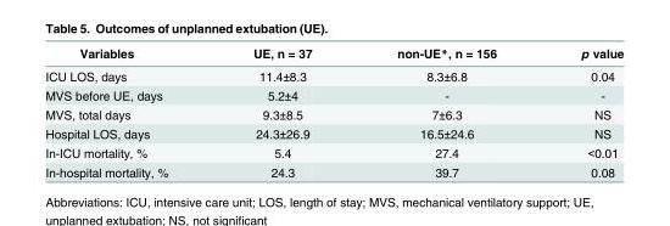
<table><thead><tr><td>Variables</td><td>UE, n = 37</td><td>non-UE*, n = 156</td><td>p value</td></tr></thead><tbody><tr><td>ICU LOS, days</td><td>11.4±8.3</td><td>8.3±6.8</td><td>0.04</td></tr><tr><td>MVS before UE, days</td><td>5.2±4</td><td>-</td><td>-</td></tr><tr><td>MVS, total days</td><td>9.3±8.5</td><td>7±6.3</td><td>NS</td></tr><tr><td>Hospital LOS, days</td><td>24.3±26.9</td><td>16.5±24.6</td><td>NS</td></tr><tr><td>In-ICU mortality, %</td><td>5.4</td><td>27.4</td><td>&lt;0.01</td></tr><tr><td>In-hospital mortality, %</td><td>24.3</td><td>39.7</td><td>0.08</td></tr></tbody></table>